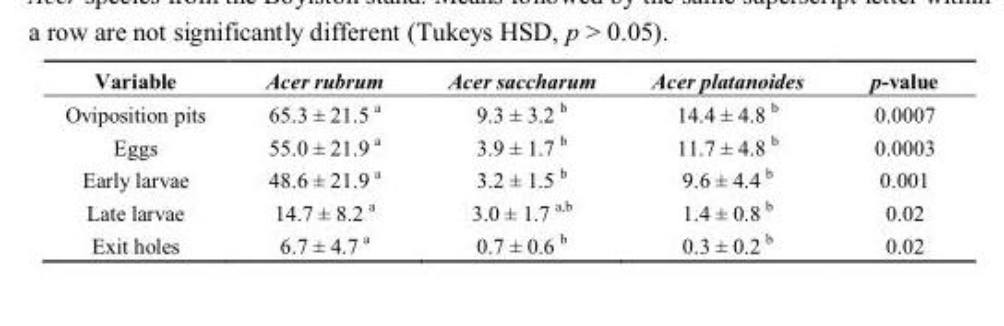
<table><thead><tr><td>Variable</td><td>Acer rubrum</td><td>Acer saccharum</td><td>Acer platanoides</td><td>p-value</td></tr></thead><tbody><tr><td>Oviposition pits</td><td>65.3 ± 21.5 <sup>a</sup></td><td>9.3 ± 3.2 <sup>b</sup></td><td>14.4 ± 4.8 <sup>b</sup></td><td>0.0007</td></tr><tr><td>Eggs</td><td>55.0 ± 21.9 <sup>a</sup></td><td>3.9 ± 1.7 <sup>b</sup></td><td>11.7 ± 4.8 <sup>b</sup></td><td>0.0003</td></tr><tr><td>Early larvae</td><td>48.6 ± 21.9 <sup>a</sup></td><td>3.2 ± 1.5 <sup>b</sup></td><td>9.6 ± 4.4 <sup>b</sup></td><td>0.001</td></tr><tr><td>Late larvae</td><td>14.7 ± 8.2 <sup>a</sup></td><td>3.0 ± 1.7 <sup>a,b</sup></td><td>1.4 ± 0.8 <sup>b</sup></td><td>0.02</td></tr><tr><td>Exit holes</td><td>6.7 ± 4.7 <sup>a</sup></td><td>0.7 ± 0.6 <sup>b</sup></td><td>0.3 ± 0.2 <sup>b</sup></td><td>0.02</td></tr></tbody></table>